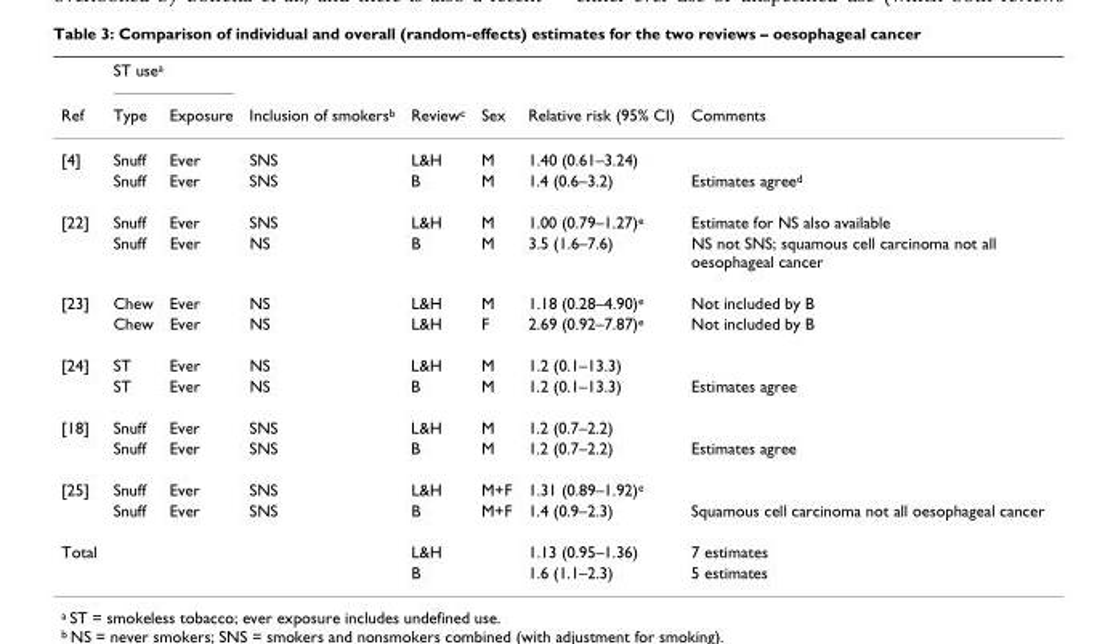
<table><thead><tr><td rowspan="2">Ref</td><td colspan="2">ST use<sup>a</sup></td><td rowspan="2">Inclusion of smokers<sup>b</sup></td><td rowspan="2">Review<sup>c</sup></td><td rowspan="2">Sex</td><td rowspan="2">Relative risk (95% CI)</td><td rowspan="2">Comments</td></tr><tr><td>Type</td><td>Exposure</td></tr></thead><tbody><tr><td rowspan="2">[4]</td><td>Snuff</td><td>Ever</td><td>SNS</td><td>L&amp;H</td><td>M</td><td>1.40 (0.61–3.24)</td><td></td></tr><tr><td>Snuff</td><td>Ever</td><td>SNS</td><td>B</td><td>M</td><td>1.4 (0.6–3.2)</td><td>Estimates agree<sup>d</sup></td></tr><tr><td rowspan="2">[22]</td><td>Snuff</td><td>Ever</td><td>SNS</td><td>L&amp;H</td><td>M</td><td>1.00 (0.79–1.27)<sup>e</sup></td><td>Estimate for NS also available</td></tr><tr><td>Snuff</td><td>Ever</td><td>NS</td><td>B</td><td>M</td><td>3.5 (1.6–7.6)</td><td>NS not SNS; squamous cell carcinoma not all oesophageal cancer</td></tr><tr><td rowspan="2">[23]</td><td>Chew</td><td>Ever</td><td>NS</td><td>L&amp;H</td><td>M</td><td>1.18 (0.28–4.90)<sup>e</sup></td><td>Not included by B</td></tr><tr><td>Chew</td><td>Ever</td><td>NS</td><td>L&amp;H</td><td>F</td><td>2.69 (0.92–7.87)<sup>e</sup></td><td>Not included by B</td></tr><tr><td rowspan="2">[24]</td><td>ST</td><td>Ever</td><td>NS</td><td>L&amp;H</td><td>M</td><td>1.2 (0.1–13.3)</td><td></td></tr><tr><td>ST</td><td>Ever</td><td>NS</td><td>B</td><td>M</td><td>1.2 (0.1–13.3)</td><td>Estimates agree</td></tr><tr><td rowspan="2">[18]</td><td>Snuff</td><td>Ever</td><td>SNS</td><td>L&amp;H</td><td>M</td><td>1.2 (0.7–2.2)</td><td></td></tr><tr><td>Snuff</td><td>Ever</td><td>SNS</td><td>B</td><td>M</td><td>1.2 (0.7–2.2)</td><td>Estimates agree</td></tr><tr><td rowspan="2">[25]</td><td>Snuff</td><td>Ever</td><td>SNS</td><td>L&amp;H</td><td>M+F</td><td>1.31 (0.89–1.92)<sup>e</sup></td><td></td></tr><tr><td>Snuff</td><td>Ever</td><td>SNS</td><td>B</td><td>M+F</td><td>1.4 (0.9–2.3)</td><td>Squamous cell carcinoma not all oesophageal cancer</td></tr><tr><td rowspan="2">Total</td><td></td><td></td><td></td><td>L&amp;H</td><td></td><td>1.13 (0.95–1.36)</td><td>7 estimates</td></tr><tr><td></td><td></td><td></td><td>B</td><td></td><td>1.6 (1.1–2.3)</td><td>5 estimates</td></tr></tbody></table>